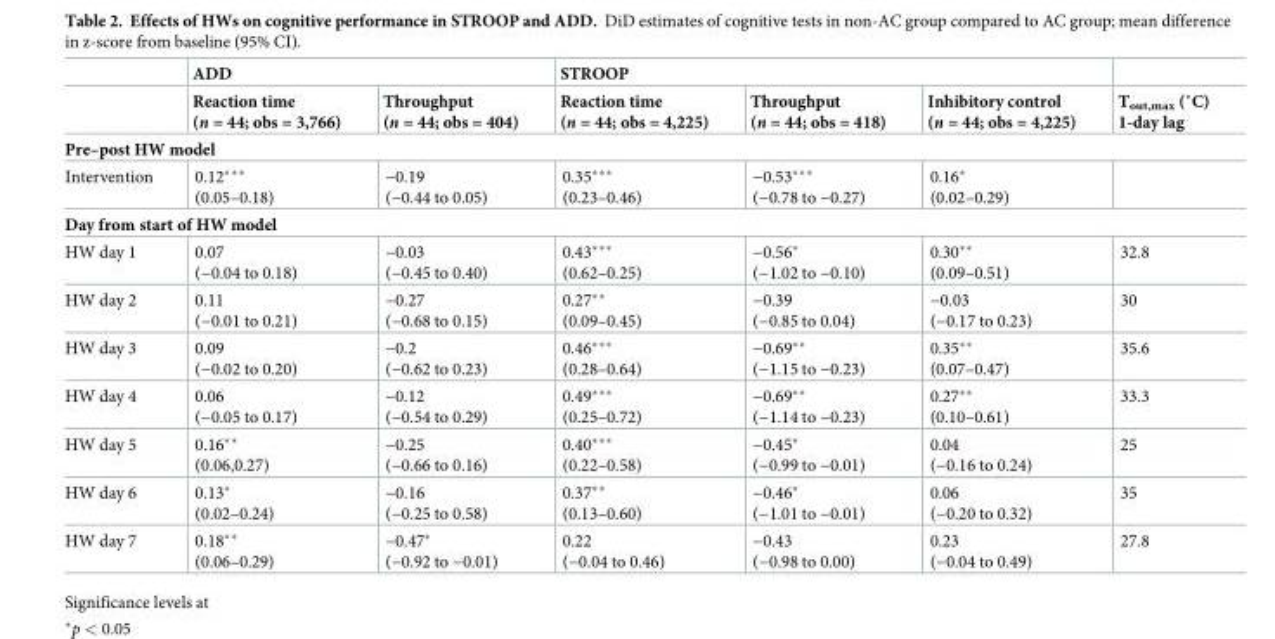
<table><thead><tr><td rowspan="2"></td><td colspan="2">ADD</td><td colspan="3">STROOP</td><td rowspan="2">Tout,max (˚C) 1-day lag</td></tr><tr><td>Reaction time (n = 44; obs = 3,766)</td><td>Throughput (n = 44; obs = 404)</td><td>Reaction time (n = 44; obs = 4,225)</td><td>Throughput (n = 44; obs = 418)</td><td>Inhibitory control (n = 44; obs = 4,225)</td></tr></thead><tbody><tr><td colspan="7">Pre–post HW model</td></tr><tr><td>Intervention</td><td>0.12*** (0.05–0.18)</td><td>−0.19 (−0.44 to 0.05)</td><td>0.35*** (0.23–0.46)</td><td>−0.53*** (−0.78 to −0.27)</td><td>0.16* (0.02–0.29)</td><td></td></tr><tr><td colspan="7">Day from start of HW model</td></tr><tr><td>HW day 1</td><td>0.07 (−0.04 to 0.18)</td><td>−0.03 (−0.45 to 0.40)</td><td>0.43*** (0.62–0.25)</td><td>−0.56* (−1.02 to −0.10)</td><td>0.30** (0.09–0.51)</td><td>32.8</td></tr><tr><td>HW day 2</td><td>0.11 (−0.01 to 0.21)</td><td>−0.27 (−0.68 to 0.15)</td><td>0.27** (0.09–0.45)</td><td>−0.39 (−0.85 to 0.04)</td><td>−0.03 (−0.17 to 0.23)</td><td>30</td></tr><tr><td>HW day 3</td><td>0.09 (−0.02 to 0.20)</td><td>−0.2 (−0.62 to 0.23)</td><td>0.46*** (0.28–0.64)</td><td>−0.69** (−1.15 to −0.23)</td><td>0.35** (0.07–0.47)</td><td>35.6</td></tr><tr><td>HW day 4</td><td>0.06 (−0.05 to 0.17)</td><td>−0.12 (−0.54 to 0.29)</td><td>0.49*** (0.25–0.72)</td><td>−0.69** (−1.14 to −0.23)</td><td>0.27** (0.10–0.61)</td><td>33.3</td></tr><tr><td>HW day 5</td><td>0.16** (0.06,0.27)</td><td>−0.25 (−0.66 to 0.16)</td><td>0.40*** (0.22–0.58)</td><td>−0.45* (−0.99 to −0.01)</td><td>0.04 (−0.16 to 0.24)</td><td>25</td></tr><tr><td>HW day 6</td><td>0.13* (0.02–0.24)</td><td>−0.16 (−0.25 to 0.58)</td><td>0.37** (0.13–0.60)</td><td>−0.46* (−1.01 to −0.01)</td><td>0.06 (−0.20 to 0.32)</td><td>35</td></tr><tr><td>HW day 7</td><td>0.18** (0.06–0.29)</td><td>−0.47* (−0.92 to −0.01)</td><td>0.22 (−0.04 to 0.46)</td><td>−0.43 (−0.98 to 0.00)</td><td>0.23 (−0.04 to 0.49)</td><td>27.8</td></tr></tbody></table>